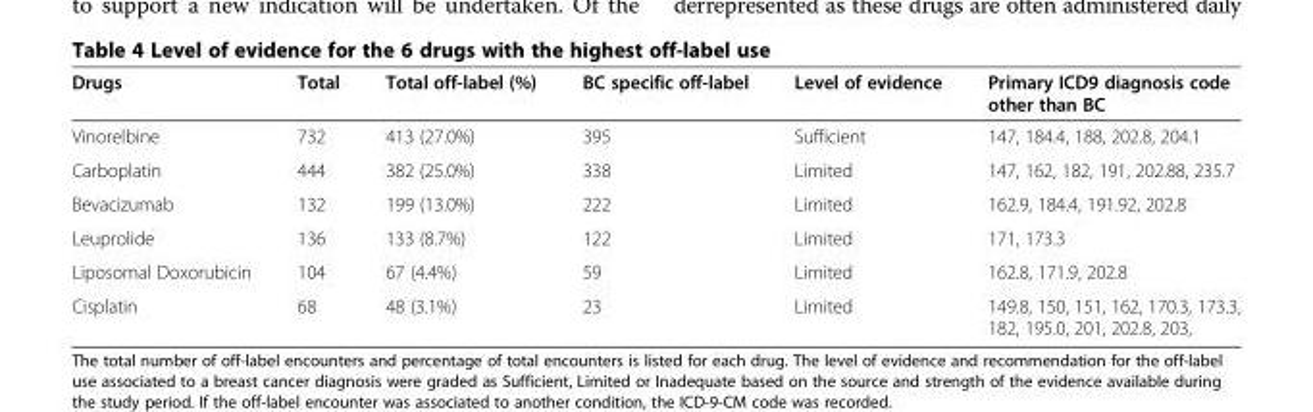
<table><thead><tr><td>Drugs</td><td>Total</td><td>Total off-label (%)</td><td>BC specific off-label</td><td>Level of evidence</td><td>Primary ICD9 diagnosis code other than BC</td></tr></thead><tbody><tr><td>Vinorelbine</td><td>732</td><td>413 (27.0%)</td><td>395</td><td>Sufficient</td><td>147, 184.4, 188, 202.8, 204.1</td></tr><tr><td>Carboplatin</td><td>444</td><td>382 (25.0%)</td><td>338</td><td>Limited</td><td>147, 162, 182, 191, 202.88, 235.7</td></tr><tr><td>Bevacizumab</td><td>132</td><td>199 (13.0%)</td><td>222</td><td>Limited</td><td>162.9, 184.4, 191.92, 202.8</td></tr><tr><td>Leuprolide</td><td>136</td><td>133 (8.7%)</td><td>122</td><td>Limited</td><td>171, 173.3</td></tr><tr><td>Liposomal Doxorubicin</td><td>104</td><td>67 (4.4%)</td><td>59</td><td>Limited</td><td>162.8, 171.9, 202.8</td></tr><tr><td>Cisplatin</td><td>68</td><td>48 (3.1%)</td><td>23</td><td>Limited</td><td>149.8, 150, 151, 162, 170.3, 173.3, 182, 195.0, 201, 202.8, 203,</td></tr></tbody></table>